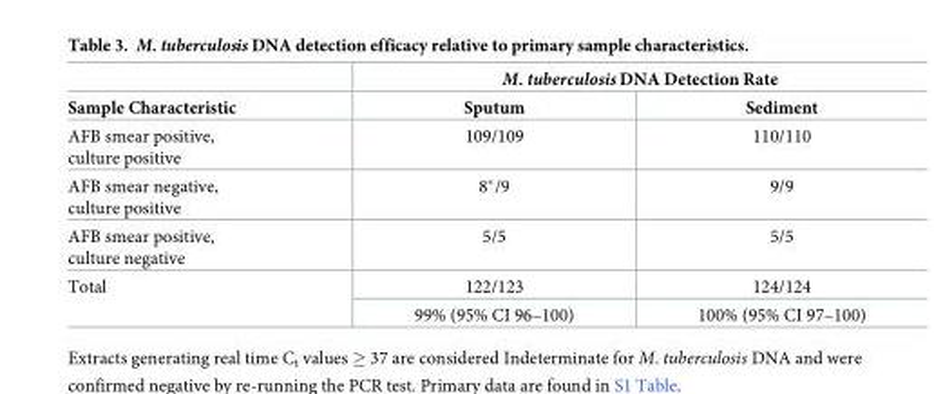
<table><thead><tr><td rowspan="2">Sample Characteristic</td><td colspan="2">M. tuberculosis DNA Detection Rate</td></tr><tr><td>Sputum</td><td>Sediment</td></tr></thead><tbody><tr><td>AFB smear positive, culture positive</td><td>109/109</td><td>110/110</td></tr><tr><td>AFB smear negative, culture positive</td><td>8*/9</td><td>9/9</td></tr><tr><td>AFB smear positive, culture negative</td><td>5/5</td><td>5/5</td></tr><tr><td rowspan="2">Total</td><td>122/123</td><td>124/124</td></tr><tr><td>99% (95% CI 96–100)</td><td>100% (95% CI 97–100)</td></tr></tbody></table>